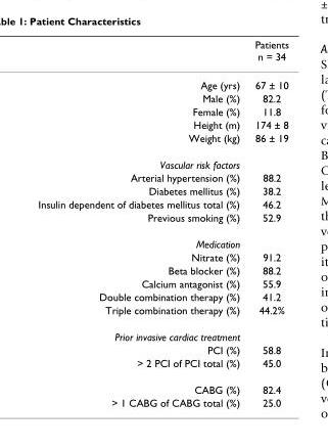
<table><thead><tr><td></td><td>Patients n = 34</td></tr></thead><tbody><tr><td>Age (yrs)</td><td>67 ± 10</td></tr><tr><td>Male (%)</td><td>82.2</td></tr><tr><td>Female (%)</td><td>11.8</td></tr><tr><td>Height (m)</td><td>174 ± 8</td></tr><tr><td>Weight (kg)</td><td>86 ± 19</td></tr><tr><td colspan="2">Vascular risk factors</td></tr><tr><td>Arterial hypertension (%)</td><td>88.2</td></tr><tr><td>Diabetes mellitus (%)</td><td>38.2</td></tr><tr><td>Insulin dependent of diabetes mellitus total (%)</td><td>46.2</td></tr><tr><td>Previous smoking (%)</td><td>52.9</td></tr><tr><td colspan="2">Medication</td></tr><tr><td>Nitrate (%)</td><td>91.2</td></tr><tr><td>Beta blocker (%)</td><td>88.2</td></tr><tr><td>Calcium antagonist (%)</td><td>55.9</td></tr><tr><td>Double combination therapy (%)</td><td>41.2</td></tr><tr><td>Triple combination therapy (%)</td><td>44.2%</td></tr><tr><td colspan="2">Prior invasive cardiac treatment</td></tr><tr><td>PCI (%)</td><td>58.8</td></tr><tr><td>&gt; 2 PCI of PCI total (%)</td><td>45.0</td></tr><tr><td>CABG (%)</td><td>82.4</td></tr><tr><td>&gt; 1 CABG of CABG total (%)</td><td>25.0</td></tr></tbody></table>